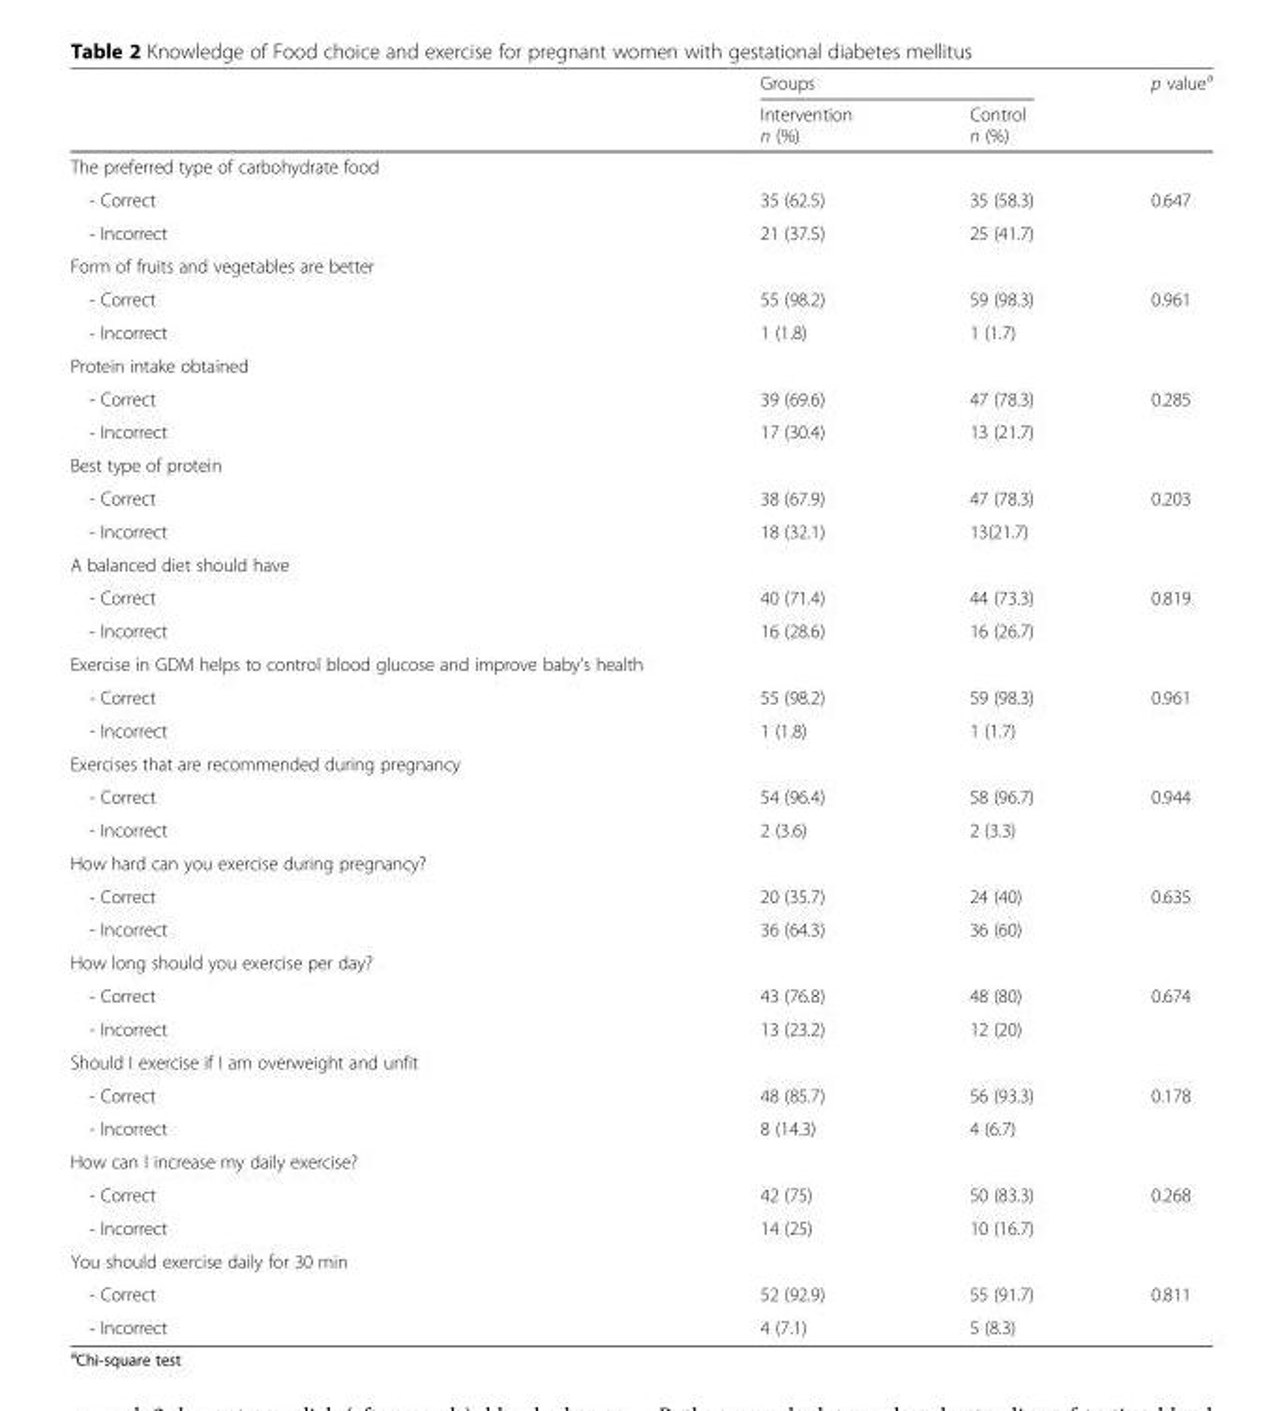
<table><thead><tr><td rowspan="2"></td><td colspan="2">Groups</td><td rowspan="2">p value<sup>a</sup></td></tr><tr><td>Intervention n (%)</td><td>Control n (%)</td></tr></thead><tbody><tr><td colspan="4">The preferred type of carbohydrate food</td></tr><tr><td>- Correct</td><td>35 (62.5)</td><td>35 (58.3)</td><td>0.647</td></tr><tr><td>- Incorrect</td><td>21 (37.5)</td><td>25 (41.7)</td><td></td></tr><tr><td colspan="4">Form of fruits and vegetables are better</td></tr><tr><td>- Correct</td><td>55 (98.2)</td><td>59 (98.3)</td><td>0.961</td></tr><tr><td>- Incorrect</td><td>1 (1.8)</td><td>1 (1.7)</td><td></td></tr><tr><td colspan="4">Protein intake obtained</td></tr><tr><td>- Correct</td><td>39 (69.6)</td><td>47 (78.3)</td><td>0.285</td></tr><tr><td>- Incorrect</td><td>17 (30.4)</td><td>13 (21.7)</td><td></td></tr><tr><td colspan="4">Best type of protein</td></tr><tr><td>- Correct</td><td>38 (67.9)</td><td>47 (78.3)</td><td>0.203</td></tr><tr><td>- Incorrect</td><td>18 (32.1)</td><td>13(21.7)</td><td></td></tr><tr><td colspan="4">A balanced diet should have</td></tr><tr><td>- Correct</td><td>40 (71.4)</td><td>44 (73.3)</td><td>0.819</td></tr><tr><td>- Incorrect</td><td>16 (28.6)</td><td>16 (26.7)</td><td></td></tr><tr><td colspan="4">Exercise in GDM helps to control blood glucose and improve baby’s health</td></tr><tr><td>- Correct</td><td>55 (98.2)</td><td>59 (98.3)</td><td>0.961</td></tr><tr><td>- Incorrect</td><td>1 (1.8)</td><td>1 (1.7)</td><td></td></tr><tr><td colspan="4">Exercises that are recommended during pregnancy</td></tr><tr><td>- Correct</td><td>54 (96.4)</td><td>58 (96.7)</td><td>0.944</td></tr><tr><td>- Incorrect</td><td>2 (3.6)</td><td>2 (3.3)</td><td></td></tr><tr><td colspan="4">How hard can you exercise during pregnancy?</td></tr><tr><td>- Correct</td><td>20 (35.7)</td><td>24 (40)</td><td>0.635</td></tr><tr><td>- Incorrect</td><td>36 (64.3)</td><td>36 (60)</td><td></td></tr><tr><td colspan="4">How long should you exercise per day?</td></tr><tr><td>- Correct</td><td>43 (76.8)</td><td>48 (80)</td><td>0.674</td></tr><tr><td>- Incorrect</td><td>13 (23.2)</td><td>12 (20)</td><td></td></tr><tr><td colspan="4">Should I exercise if I am overweight and unfit</td></tr><tr><td>- Correct</td><td>48 (85.7)</td><td>56 (93.3)</td><td>0.178</td></tr><tr><td>- Incorrect</td><td>8 (14.3)</td><td>4 (6.7)</td><td></td></tr><tr><td colspan="4">How can I increase my daily exercise?</td></tr><tr><td>- Correct</td><td>42 (75)</td><td>50 (83.3)</td><td>0.268</td></tr><tr><td>- Incorrect</td><td>14 (25)</td><td>10 (16.7)</td><td></td></tr><tr><td colspan="4">You should exercise daily for 30 min</td></tr><tr><td>- Correct</td><td>52 (92.9)</td><td>55 (91.7)</td><td>0.811</td></tr><tr><td>- Incorrect</td><td>4 (7.1)</td><td>5 (8.3)</td><td></td></tr></tbody></table>